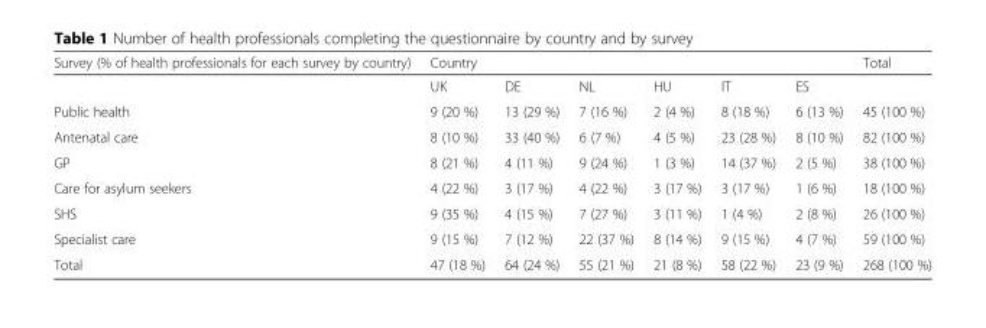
<table><thead><tr><td rowspan="2">Survey (% of health professionals for each survey by country)</td><td colspan="6">Country</td><td rowspan="2">Total</td></tr><tr><td>UK</td><td>DE</td><td>NL</td><td>HU</td><td>IT</td><td>ES</td></tr></thead><tbody><tr><td>Public health</td><td>9 (20 %)</td><td>13 (29 %)</td><td>7 (16 %)</td><td>2 (4 %)</td><td>8 (18 %)</td><td>6 (13 %)</td><td>45 (100 %)</td></tr><tr><td>Antenatal care</td><td>8 (10 %)</td><td>33 (40 %)</td><td>6 (7 %)</td><td>4 (5 %)</td><td>23 (28 %)</td><td>8 (10 %)</td><td>82 (100 %)</td></tr><tr><td>GP</td><td>8 (21 %)</td><td>4 (11 %)</td><td>9 (24 %)</td><td>1 (3 %)</td><td>14 (37 %)</td><td>2 (5 %)</td><td>38 (100 %)</td></tr><tr><td>Care for asylum seekers</td><td>4 (22 %)</td><td>3 (17 %)</td><td>4 (22 %)</td><td>3 (17 %)</td><td>3 (17 %)</td><td>1 (6 %)</td><td>18 (100 %)</td></tr><tr><td>SHS</td><td>9 (35 %)</td><td>4 (15 %)</td><td>7 (27 %)</td><td>3 (11 %)</td><td>1 (4 %)</td><td>2 (8 %)</td><td>26 (100 %)</td></tr><tr><td>Specialist care</td><td>9 (15 %)</td><td>7 (12 %)</td><td>22 (37 %)</td><td>8 (14 %)</td><td>9 (15 %)</td><td>4 (7 %)</td><td>59 (100 %)</td></tr><tr><td>Total</td><td>47 (18 %)</td><td>64 (24 %)</td><td>55 (21 %)</td><td>21 (8 %)</td><td>58 (22 %)</td><td>23 (9 %)</td><td>268 (100 %)</td></tr></tbody></table>